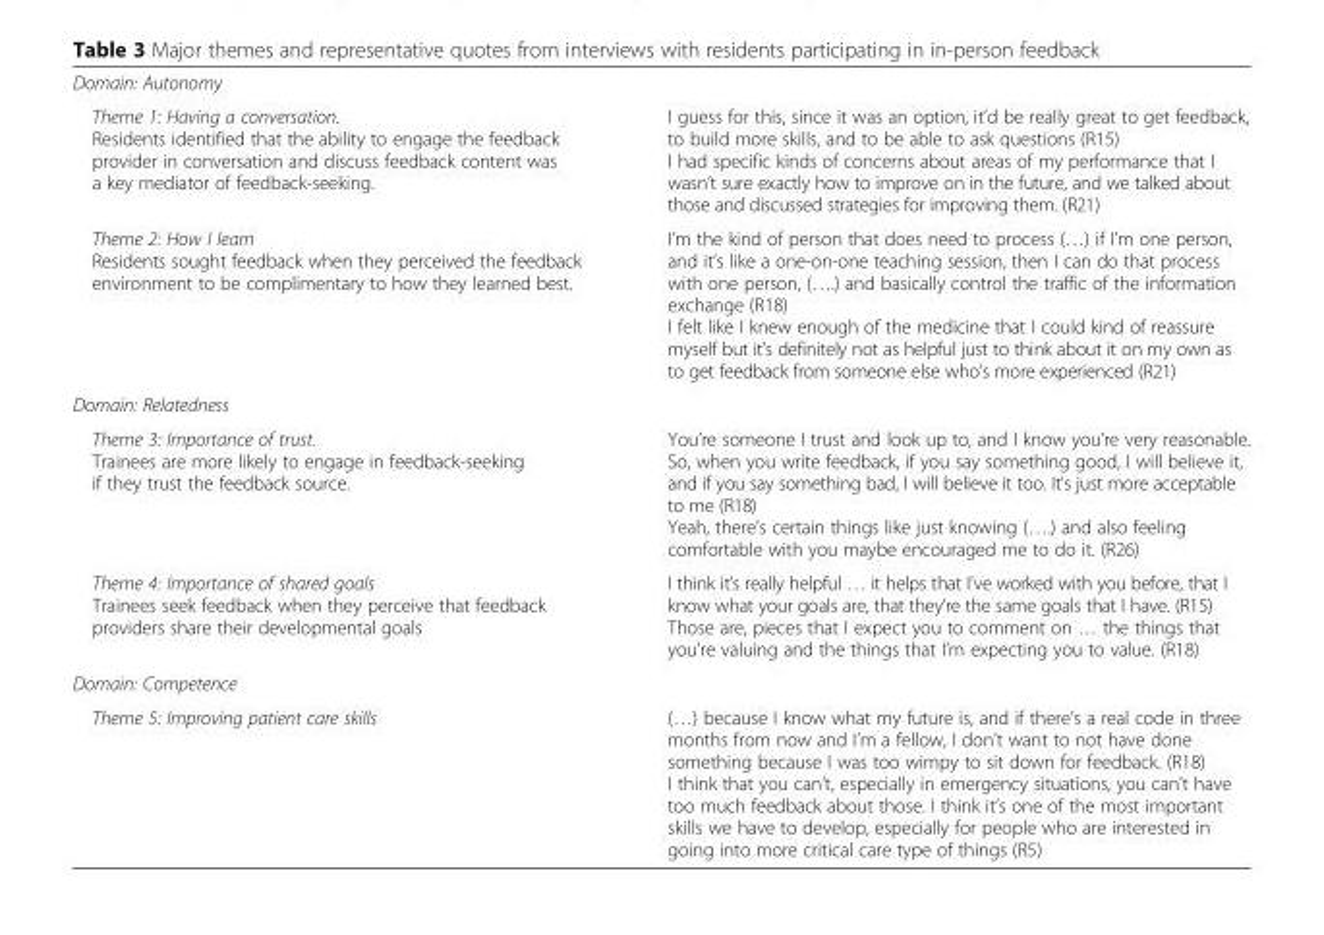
<table><tbody><tr><td colspan="2">Domain: Autonomy</td></tr><tr><td>Theme 1: Having a conversation. Residents identified that the ability to engage the feedback provider in conversation and discuss feedback content was a key mediator of feedback-seeking.</td><td>I guess for this, since it was an option, it’d be really great to get feedback, to build more skills, and to be able to ask questions (R15) I had specific kinds of concerns about areas of my performance that I wasn’t sure exactly how to improve on in the future, and we talked about those and discussed strategies for improving them. (R21)</td></tr><tr><td>Theme 2: How I learn Residents sought feedback when they perceived the feedback environment to be complimentary to how they learned best.</td><td>I’m the kind of person that does need to process (…) if I’m one person, and it’s like a one-on-one teaching session, then I can do that process with one person, (….) and basically control the traffic of the information exchange (R18) I felt like I knew enough of the medicine that I could kind of reassure myself but it’s definitely not as helpful just to think about it on my own as to get feedback from someone else who’s more experienced (R21)</td></tr><tr><td colspan="2">Domain: Relatedness</td></tr><tr><td>Theme 3: Importance of trust. Trainees are more likely to engage in feedback-seeking if they trust the feedback source.</td><td>You’re someone I trust and look up to, and I know you’re very reasonable. So, when you write feedback, if you say something good, I will believe it, and if you say something bad, I will believe it too. It’s just more acceptable to me (R18) Yeah, there’s certain things like just knowing (….) and also feeling comfortable with you maybe encouraged me to do it. (R26)</td></tr><tr><td>Theme 4: Importance of shared goals Trainees seek feedback when they perceive that feedback providers share their developmental goals</td><td>I think it’s really helpful … it helps that I’ve worked with you before, that I know what your goals are, that they’re the same goals that I have. (R15) Those are, pieces that I expect you to comment on … the things that you’re valuing and the things that I’m expecting you to value. (R18)</td></tr><tr><td colspan="2">Domain: Competence</td></tr><tr><td>Theme 5: Improving patient care skills</td><td>(…) because I know what my future is, and if there’s a real code in three months from now and I’m a fellow, I don’t want to not have done something because I was too wimpy to sit down for feedback. (R18) I think that you can’t, especially in emergency situations, you can’t have too much feedback about those. I think it’s one of the most important skills we have to develop, especially for people who are interested in going into more critical care type of things (R5)</td></tr></tbody></table>